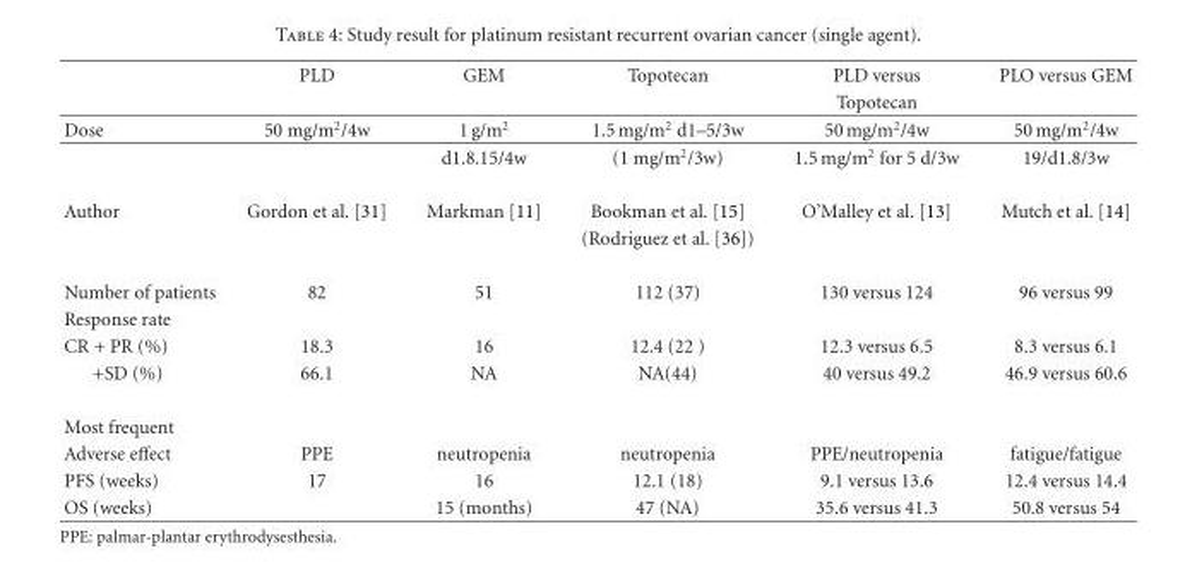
<table><thead><tr><td rowspan="2"></td><td rowspan="2">PLD</td><td rowspan="2">GEM</td><td rowspan="2">Topotecan</td><td rowspan="2">PLD versus Topotecan</td><td rowspan="2">PLO versus GEM</td></tr><tr></tr></thead><tbody><tr><td rowspan="2">Dose</td><td>50 mg/m<sup>2</sup>/4w</td><td>1 g/m<sup>2</sup></td><td>1.5 mg/m<sup>2</sup> d1–5/3w</td><td>50 mg/m<sup>2</sup>/4w</td><td>50 mg/m<sup>2</sup>/4w</td></tr><tr><td></td><td>d1.8.15/4w</td><td>(1 mg/m<sup>2</sup>/3w)</td><td>1.5 mg/m<sup>2</sup> for 5 d/3w</td><td>19/d1.8/3w</td></tr><tr><td rowspan="2">Author</td><td>Gordon et al. [31]</td><td>Markman [11]</td><td>Bookman et al. [15]</td><td>O’Malley et al. [13]</td><td>Mutch et al. [14]</td></tr><tr><td></td><td></td><td>(Rodriguez et al. [36])</td><td></td><td></td></tr><tr><td>Number of patients</td><td>82</td><td>51</td><td>112 (37)</td><td>130 versus 124</td><td>96 versus 99</td></tr><tr><td colspan="6">Response rate</td></tr><tr><td>CR + PR (%)</td><td>18.3</td><td>16</td><td>12.4 (22 )</td><td>12.3 versus 6.5</td><td>8.3 versus 6.1</td></tr><tr><td>+SD (%)</td><td>66.1</td><td>NA</td><td>NA(44)</td><td>40 versus 49.2</td><td>46.9 versus 60.6</td></tr><tr><td colspan="6">Most frequent</td></tr><tr><td>Adverse effect</td><td>PPE</td><td>neutropenia</td><td>neutropenia</td><td>PPE/neutropenia</td><td>fatigue/fatigue</td></tr><tr><td>PFS (weeks)</td><td>17</td><td>16</td><td>12.1 (18)</td><td>9.1 versus 13.6</td><td>12.4 versus 14.4</td></tr><tr><td>OS (weeks)</td><td></td><td>15 (months)</td><td>47 (NA)</td><td>35.6 versus 41.3</td><td>50.8 versus 54</td></tr></tbody></table>